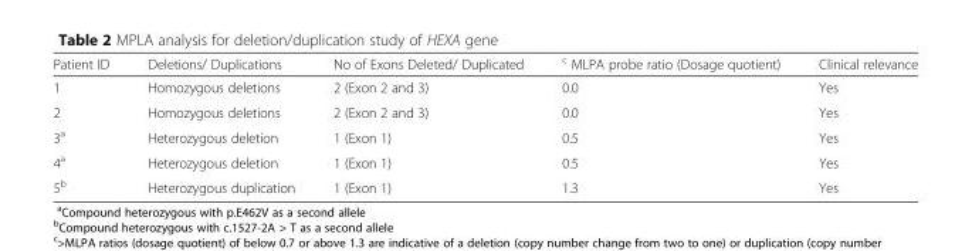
<table><thead><tr><td>Patient ID</td><td>Deletions/ Duplications</td><td>No of Exons Deleted/ Duplicated</td><td><sup>c</sup> MLPA probe ratio (Dosage quotient)</td><td>Clinical relevance</td></tr></thead><tbody><tr><td>1</td><td>Homozygous deletions</td><td>2 (Exon 2 and 3)</td><td>0.0</td><td>Yes</td></tr><tr><td>2</td><td>Homozygous deletions</td><td>2 (Exon 2 and 3)</td><td>0.0</td><td>Yes</td></tr><tr><td>3<sup>a</sup></td><td>Heterozygous deletion</td><td>1 (Exon 1)</td><td>0.5</td><td>Yes</td></tr><tr><td>4<sup>a</sup></td><td>Heterozygous deletion</td><td>1 (Exon 1)</td><td>0.5</td><td>Yes</td></tr><tr><td>5<sup>b</sup></td><td>Heterozygous duplication</td><td>1 (Exon 1)</td><td>1.3</td><td>Yes</td></tr></tbody></table>